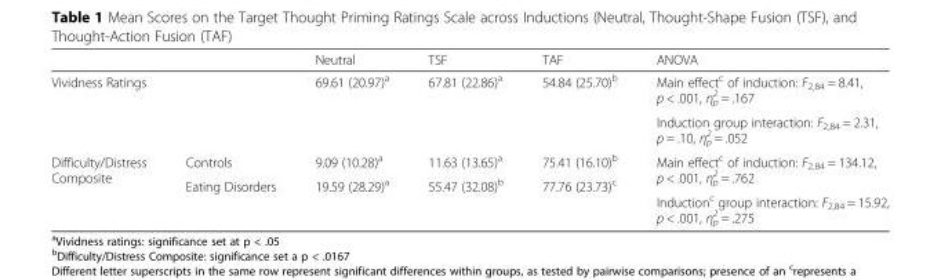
<table><thead><tr><td></td><td></td><td>Neutral</td><td>TSF</td><td>TAF</td><td>ANOVA</td></tr></thead><tbody><tr><td rowspan="2" colspan="2">Vividness Ratings</td><td rowspan="2">69.61 (20.97)<sup>a</sup></td><td rowspan="2">67.81 (22.86)<sup>a</sup></td><td rowspan="2">54.84 (25.70)<sup>b</sup></td><td>Main effect<sup>c</sup> of induction: F<sub>2,84</sub> = 8.41, p &lt; .001, η<sub>p</sub> <sup>2</sup> = .167</td></tr><tr><td>Induction group interaction: F<sub>2,84</sub> = 2.31, p = .10, η<sub>p</sub> <sup>2</sup> = .052</td></tr><tr><td rowspan="3">Difficulty/Distress Composite</td><td>Controls</td><td>9.09 (10.28)<sup>a</sup></td><td>11.63 (13.65)<sup>a</sup></td><td>75.41 (16.10)<sup>b</sup></td><td rowspan="2">Main effect<sup>c</sup> of induction: F<sub>2,84</sub> = 134.12, p &lt; .001, η<sub>p</sub> <sup>2</sup> = .762</td></tr><tr><td rowspan="2">Eating Disorders</td><td rowspan="2">19.59 (28.29)<sup>a</sup></td><td rowspan="2">55.47 (32.08)<sup>b</sup></td><td rowspan="2">77.76 (23.73)<sup>c</sup></td></tr><tr><td>Induction<sup>c</sup> group interaction: F<sub>2,84</sub> = 15.92, p &lt; .001, η<sub>p</sub> <sup>2</sup> = .275</td></tr></tbody></table>